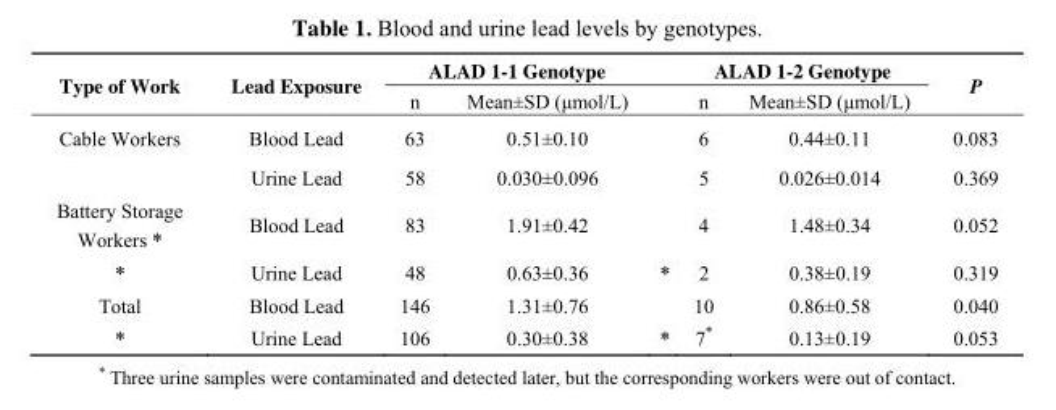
<table><thead><tr><td rowspan="2">Type of Work</td><td rowspan="2">Lead Exposure</td><td colspan="2">ALAD 1-1 Genotype</td><td rowspan="2"></td><td colspan="2">ALAD 1-2 Genotype</td><td rowspan="2">P</td></tr><tr><td>n</td><td>Mean±SD (μmol/L)</td><td>n</td><td>Mean±SD (μmol/L)</td></tr></thead><tbody><tr><td rowspan="2">Cable Workers</td><td>Blood Lead</td><td>63</td><td>0.51±0.10</td><td></td><td>6</td><td>0.44±0.11</td><td>0.083</td></tr><tr><td>Urine Lead</td><td>58</td><td>0.030±0.096</td><td></td><td>5</td><td>0.026±0.014</td><td>0.369</td></tr><tr><td>Battery Storage Workers *</td><td>Blood Lead</td><td>83</td><td>1.91±0.42</td><td></td><td>4</td><td>1.48±0.34</td><td>0.052</td></tr><tr><td>*</td><td>Urine Lead</td><td>48</td><td>0.63±0.36</td><td>*</td><td>2</td><td>0.38±0.19</td><td>0.319</td></tr><tr><td>Total</td><td>Blood Lead</td><td>146</td><td>1.31±0.76</td><td></td><td>10</td><td>0.86±0.58</td><td>0.040</td></tr><tr><td>*</td><td>Urine Lead</td><td>106</td><td>0.30±0.38</td><td>*</td><td>7*</td><td>0.13±0.19</td><td>0.053</td></tr></tbody></table>